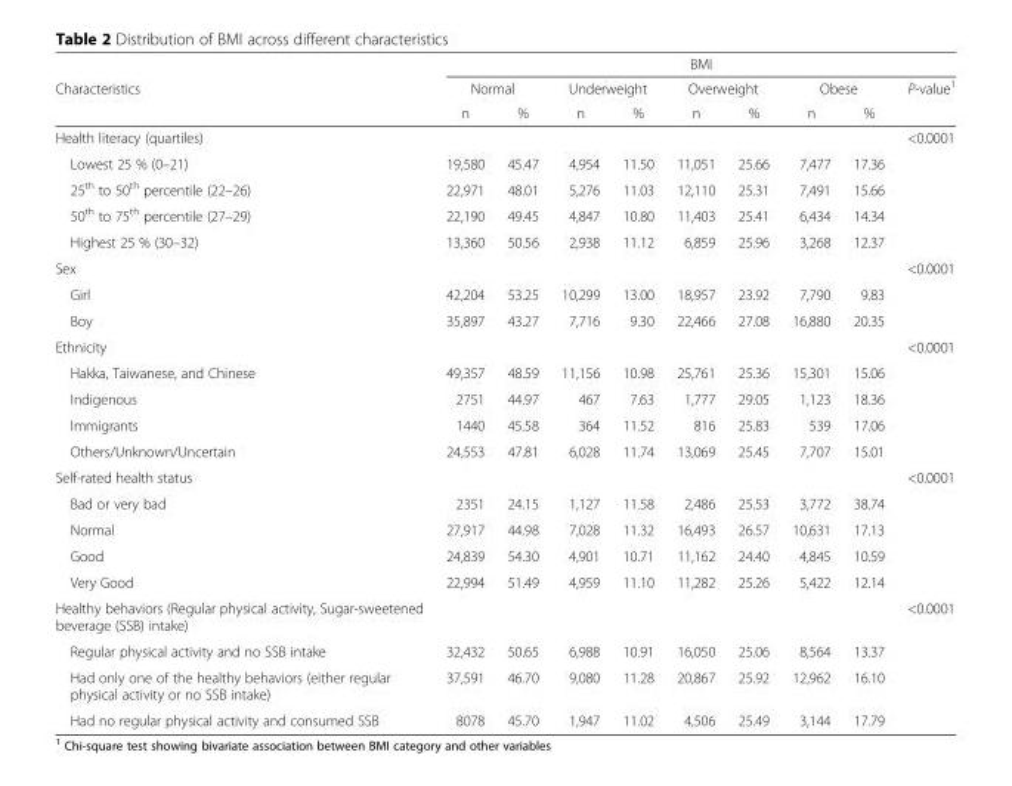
<table><thead><tr><td rowspan="3">Characteristics</td><td colspan="9">BMI</td></tr><tr><td colspan="2">Normal</td><td colspan="2">Underweight</td><td colspan="2">Overweight</td><td colspan="2">Obese</td><td rowspan="2">P-value<sup>1</sup></td></tr><tr><td>n</td><td>%</td><td>n</td><td>%</td><td>n</td><td>%</td><td>n</td><td>%</td></tr></thead><tbody><tr><td>Health literacy (quartiles)</td><td></td><td></td><td></td><td></td><td></td><td></td><td></td><td></td><td>&lt;0.0001</td></tr><tr><td>Lowest 25 % (0–21)</td><td>19,580</td><td>45.47</td><td>4,954</td><td>11.50</td><td>11,051</td><td>25.66</td><td>7,477</td><td>17.36</td><td></td></tr><tr><td>25<sup>th</sup> to 50<sup>th</sup> percentile (22–26)</td><td>22,971</td><td>48.01</td><td>5,276</td><td>11.03</td><td>12,110</td><td>25.31</td><td>7,491</td><td>15.66</td><td></td></tr><tr><td>50<sup>th</sup> to 75<sup>th</sup> percentile (27–29)</td><td>22,190</td><td>49.45</td><td>4,847</td><td>10.80</td><td>11,403</td><td>25.41</td><td>6,434</td><td>14.34</td><td></td></tr><tr><td>Highest 25 % (30–32)</td><td>13,360</td><td>50.56</td><td>2,938</td><td>11.12</td><td>6,859</td><td>25.96</td><td>3,268</td><td>12.37</td><td></td></tr><tr><td>Sex</td><td></td><td></td><td></td><td></td><td></td><td></td><td></td><td></td><td>&lt;0.0001</td></tr><tr><td>Girl</td><td>42,204</td><td>53.25</td><td>10,299</td><td>13.00</td><td>18,957</td><td>23.92</td><td>7,790</td><td>9.83</td><td></td></tr><tr><td>Boy</td><td>35,897</td><td>43.27</td><td>7,716</td><td>9.30</td><td>22,466</td><td>27.08</td><td>16,880</td><td>20.35</td><td></td></tr><tr><td>Ethnicity</td><td></td><td></td><td></td><td></td><td></td><td></td><td></td><td></td><td>&lt;0.0001</td></tr><tr><td>Hakka, Taiwanese, and Chinese</td><td>49,357</td><td>48.59</td><td>11,156</td><td>10.98</td><td>25,761</td><td>25.36</td><td>15,301</td><td>15.06</td><td></td></tr><tr><td>Indigenous</td><td>2751</td><td>44.97</td><td>467</td><td>7.63</td><td>1,777</td><td>29.05</td><td>1,123</td><td>18.36</td><td></td></tr><tr><td>Immigrants</td><td>1440</td><td>45.58</td><td>364</td><td>11.52</td><td>816</td><td>25.83</td><td>539</td><td>17.06</td><td></td></tr><tr><td>Others/Unknown/Uncertain</td><td>24,553</td><td>47.81</td><td>6,028</td><td>11.74</td><td>13,069</td><td>25.45</td><td>7,707</td><td>15.01</td><td></td></tr><tr><td>Self-rated health status</td><td></td><td></td><td></td><td></td><td></td><td></td><td></td><td></td><td>&lt;0.0001</td></tr><tr><td>Bad or very bad</td><td>2351</td><td>24.15</td><td>1,127</td><td>11.58</td><td>2,486</td><td>25.53</td><td>3,772</td><td>38.74</td><td></td></tr><tr><td>Normal</td><td>27,917</td><td>44.98</td><td>7,028</td><td>11.32</td><td>16,493</td><td>26.57</td><td>10,631</td><td>17.13</td><td></td></tr><tr><td>Good</td><td>24,839</td><td>54.30</td><td>4,901</td><td>10.71</td><td>11,162</td><td>24.40</td><td>4,845</td><td>10.59</td><td></td></tr><tr><td>Very Good</td><td>22,994</td><td>51.49</td><td>4,959</td><td>11.10</td><td>11,282</td><td>25.26</td><td>5,422</td><td>12.14</td><td></td></tr><tr><td>Healthy behaviors (Regular physical activity, Sugar-sweetened beverage (SSB) intake)</td><td></td><td></td><td></td><td></td><td></td><td></td><td></td><td></td><td>&lt;0.0001</td></tr><tr><td>Regular physical activity and no SSB intake</td><td>32,432</td><td>50.65</td><td>6,988</td><td>10.91</td><td>16,050</td><td>25.06</td><td>8,564</td><td>13.37</td><td></td></tr><tr><td>Had only one of the healthy behaviors (either regular physical activity or no SSB intake)</td><td>37,591</td><td>46.70</td><td>9,080</td><td>11.28</td><td>20,867</td><td>25.92</td><td>12,962</td><td>16.10</td><td></td></tr><tr><td>Had no regular physical activity and consumed SSB</td><td>8078</td><td>45.70</td><td>1,947</td><td>11.02</td><td>4,506</td><td>25.49</td><td>3,144</td><td>17.79</td><td></td></tr></tbody></table>